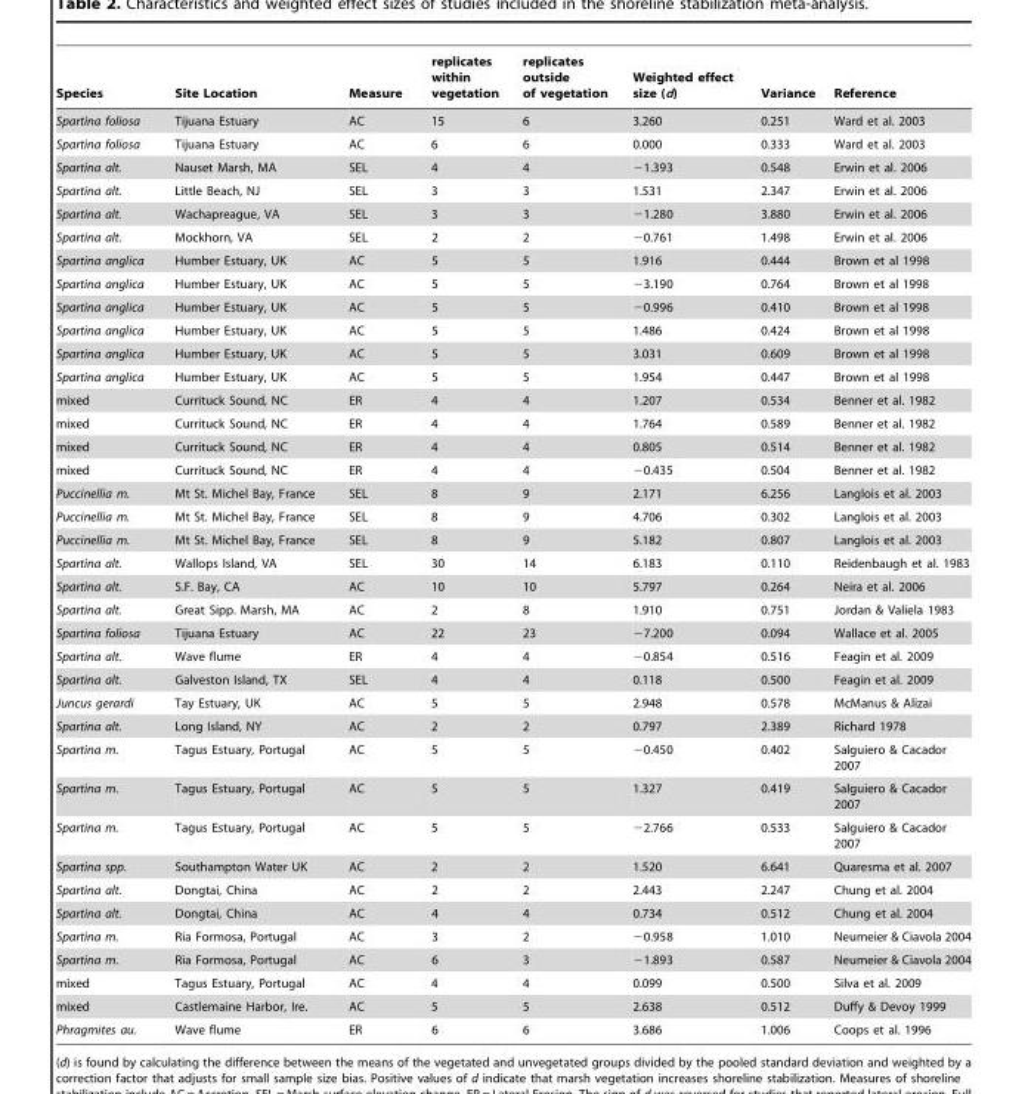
<table><thead><tr><td>Species</td><td>Site Location</td><td>Measure</td><td>replicates within vegetation</td><td>replicates outside of vegetation</td><td>Weighted effect size (d)</td><td>Variance</td><td>Reference</td></tr></thead><tbody><tr><td>Spartina foliosa</td><td>Tijuana Estuary</td><td>AC</td><td>15</td><td>6</td><td>3.260</td><td>0.251</td><td>Ward et al. 2003</td></tr><tr><td>Spartina foliosa</td><td>Tijuana Estuary</td><td>AC</td><td>6</td><td>6</td><td>0.000</td><td>0.333</td><td>Ward et al. 2003</td></tr><tr><td>Spartina alt.</td><td>Nauset Marsh, MA</td><td>SEL</td><td>4</td><td>4</td><td>−1.393</td><td>0.548</td><td>Erwin et al. 2006</td></tr><tr><td>Spartina alt.</td><td>Little Beach, NJ</td><td>SEL</td><td>3</td><td>3</td><td>1.531</td><td>2.347</td><td>Erwin et al. 2006</td></tr><tr><td>Spartina alt.</td><td>Wachapreague, VA</td><td>SEL</td><td>3</td><td>3</td><td>−1.280</td><td>3.880</td><td>Erwin et al. 2006</td></tr><tr><td>Spartina alt.</td><td>Mockhorn, VA</td><td>SEL</td><td>2</td><td>2</td><td>−0.761</td><td>1.498</td><td>Erwin et al. 2006</td></tr><tr><td>Spartina anglica</td><td>Humber Estuary, UK</td><td>AC</td><td>5</td><td>5</td><td>1.916</td><td>0.444</td><td>Brown et al 1998</td></tr><tr><td>Spartina anglica</td><td>Humber Estuary, UK</td><td>AC</td><td>5</td><td>5</td><td>−3.190</td><td>0.764</td><td>Brown et al 1998</td></tr><tr><td>Spartina anglica</td><td>Humber Estuary, UK</td><td>AC</td><td>5</td><td>5</td><td>−0.996</td><td>0.410</td><td>Brown et al 1998</td></tr><tr><td>Spartina anglica</td><td>Humber Estuary, UK</td><td>AC</td><td>5</td><td>5</td><td>1.486</td><td>0.424</td><td>Brown et al 1998</td></tr><tr><td>Spartina anglica</td><td>Humber Estuary, UK</td><td>AC</td><td>5</td><td>5</td><td>3.031</td><td>0.609</td><td>Brown et al 1998</td></tr><tr><td>Spartina anglica</td><td>Humber Estuary, UK</td><td>AC</td><td>5</td><td>5</td><td>1.954</td><td>0.447</td><td>Brown et al 1998</td></tr><tr><td>mixed</td><td>Currituck Sound, NC</td><td>ER</td><td>4</td><td>4</td><td>1.207</td><td>0.534</td><td>Benner et al. 1982</td></tr><tr><td>mixed</td><td>Currituck Sound, NC</td><td>ER</td><td>4</td><td>4</td><td>1.764</td><td>0.589</td><td>Benner et al. 1982</td></tr><tr><td>mixed</td><td>Currituck Sound, NC</td><td>ER</td><td>4</td><td>4</td><td>0.805</td><td>0.514</td><td>Benner et al. 1982</td></tr><tr><td>mixed</td><td>Currituck Sound, NC</td><td>ER</td><td>4</td><td>4</td><td>−0.435</td><td>0.504</td><td>Benner et al. 1982</td></tr><tr><td>Puccinellia m.</td><td>Mt St. Michel Bay, France</td><td>SEL</td><td>8</td><td>9</td><td>2.171</td><td>6.256</td><td>Langlois et al. 2003</td></tr><tr><td>Puccinellia m.</td><td>Mt St. Michel Bay, France</td><td>SEL</td><td>8</td><td>9</td><td>4.706</td><td>0.302</td><td>Langlois et al. 2003</td></tr><tr><td>Puccinellia m.</td><td>Mt St. Michel Bay, France</td><td>SEL</td><td>8</td><td>9</td><td>5.182</td><td>0.807</td><td>Langlois et al. 2003</td></tr><tr><td>Spartina alt.</td><td>Wallops Island, VA</td><td>SEL</td><td>30</td><td>14</td><td>6.183</td><td>0.110</td><td>Reidenbaugh et al. 1983</td></tr><tr><td>Spartina alt.</td><td>S.F. Bay, CA</td><td>AC</td><td>10</td><td>10</td><td>5.797</td><td>0.264</td><td>Neira et al. 2006</td></tr><tr><td>Spartina alt.</td><td>Great Sipp. Marsh, MA</td><td>AC</td><td>2</td><td>8</td><td>1.910</td><td>0.751</td><td>Jordan &amp; Valiela 1983</td></tr><tr><td>Spartina foliosa</td><td>Tijuana Estuary</td><td>AC</td><td>22</td><td>23</td><td>−7.200</td><td>0.094</td><td>Wallace et al. 2005</td></tr><tr><td>Spartina alt.</td><td>Wave flume</td><td>ER</td><td>4</td><td>4</td><td>−0.854</td><td>0.516</td><td>Feagin et al. 2009</td></tr><tr><td>Spartina alt.</td><td>Galveston Island, TX</td><td>SEL</td><td>4</td><td>4</td><td>0.118</td><td>0.500</td><td>Feagin et al. 2009</td></tr><tr><td>Juncus gerardi</td><td>Tay Estuary, UK</td><td>AC</td><td>5</td><td>5</td><td>2.948</td><td>0.578</td><td>McManus &amp; Alizai</td></tr><tr><td>Spartina alt.</td><td>Long Island, NY</td><td>AC</td><td>2</td><td>2</td><td>0.797</td><td>2.389</td><td>Richard 1978</td></tr><tr><td>Spartina m.</td><td>Tagus Estuary, Portugal</td><td>AC</td><td>5</td><td>5</td><td>−0.450</td><td>0.402</td><td>Salguiero &amp; Cacador 2007</td></tr><tr><td>Spartina m.</td><td>Tagus Estuary, Portugal</td><td>AC</td><td>5</td><td>5</td><td>1.327</td><td>0.419</td><td>Salguiero &amp; Cacador 2007</td></tr><tr><td>Spartina m.</td><td>Tagus Estuary, Portugal</td><td>AC</td><td>5</td><td>5</td><td>−2.766</td><td>0.533</td><td>Salguiero &amp; Cacador 2007</td></tr><tr><td>Spartina spp.</td><td>Southampton Water UK</td><td>AC</td><td>2</td><td>2</td><td>1.520</td><td>6.641</td><td>Quaresma et al. 2007</td></tr><tr><td>Spartina alt.</td><td>Dongtai, China</td><td>AC</td><td>2</td><td>2</td><td>2.443</td><td>2.247</td><td>Chung et al. 2004</td></tr><tr><td>Spartina alt.</td><td>Dongtai, China</td><td>AC</td><td>4</td><td>4</td><td>0.734</td><td>0.512</td><td>Chung et al. 2004</td></tr><tr><td>Spartina m.</td><td>Ria Formosa, Portugal</td><td>AC</td><td>3</td><td>2</td><td>−0.958</td><td>1.010</td><td>Neumeier &amp; Ciavola 2004</td></tr><tr><td>Spartina m.</td><td>Ria Formosa, Portugal</td><td>AC</td><td>6</td><td>3</td><td>−1.893</td><td>0.587</td><td>Neumeier &amp; Ciavola 2004</td></tr><tr><td>mixed</td><td>Tagus Estuary, Portugal</td><td>AC</td><td>4</td><td>4</td><td>0.099</td><td>0.500</td><td>Silva et al. 2009</td></tr><tr><td>mixed</td><td>Castlemaine Harbor, Ire.</td><td>AC</td><td>5</td><td>5</td><td>2.638</td><td>0.512</td><td>Duffy &amp; Devoy 1999</td></tr><tr><td>Phragmites au.</td><td>Wave flume</td><td>ER</td><td>6</td><td>6</td><td>3.686</td><td>1.006</td><td>Coops et al. 1996</td></tr></tbody></table>